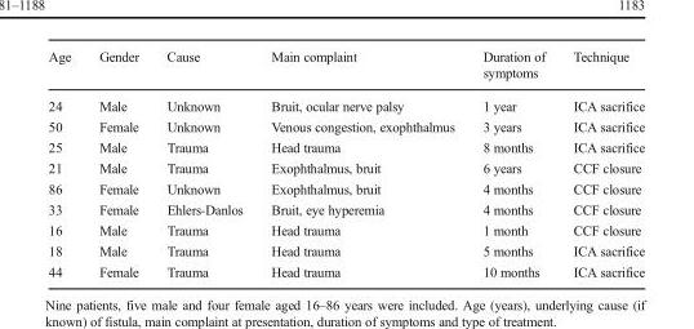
<table><thead><tr><td>Age</td><td>Gender</td><td>Cause</td><td>Main complaint</td><td>Duration of symptoms</td><td>Technique</td></tr></thead><tbody><tr><td>24</td><td>Male</td><td>Unknown</td><td>Bruit, ocular nerve palsy</td><td>1 year</td><td>ICA sacrifice</td></tr><tr><td>50</td><td>Female</td><td>Unknown</td><td>Venous congestion, exophthalmus</td><td>3 years</td><td>ICA sacrifice</td></tr><tr><td>25</td><td>Male</td><td>Trauma</td><td>Head trauma</td><td>8 months</td><td>ICA sacrifice</td></tr><tr><td>21</td><td>Male</td><td>Trauma</td><td>Exophthalmus, bruit</td><td>6 years</td><td>CCF closure</td></tr><tr><td>86</td><td>Female</td><td>Unknown</td><td>Exophthalmus, bruit</td><td>4 months</td><td>CCF closure</td></tr><tr><td>33</td><td>Female</td><td>Ehlers-Danlos</td><td>Bruit, eye hyperemia</td><td>4 months</td><td>CCF closure</td></tr><tr><td>16</td><td>Male</td><td>Trauma</td><td>Head trauma</td><td>1 month</td><td>CCF closure</td></tr><tr><td>18</td><td>Male</td><td>Trauma</td><td>Head trauma</td><td>5 months</td><td>ICA sacrifice</td></tr><tr><td>44</td><td>Female</td><td>Trauma</td><td>Head trauma</td><td>10 months</td><td>ICA sacrifice</td></tr></tbody></table>